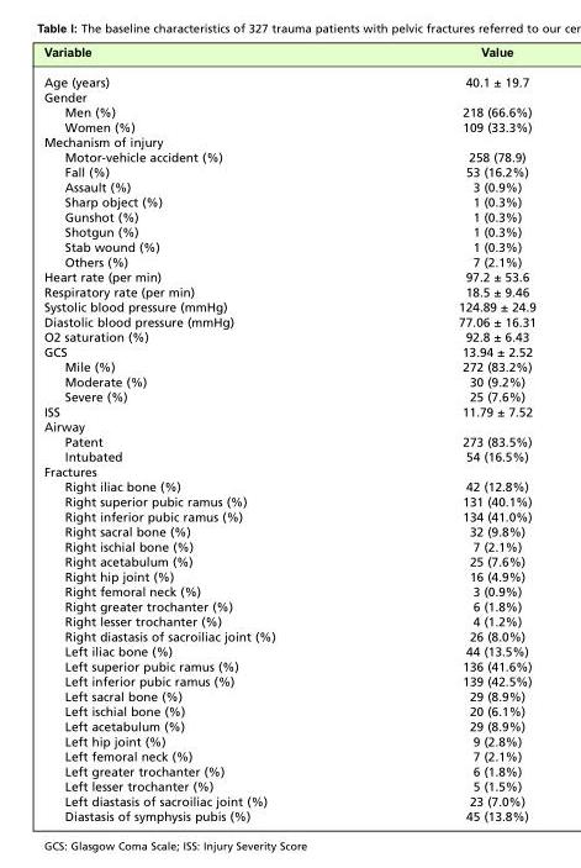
<table><thead><tr><td>Variable</td><td>Value</td></tr></thead><tbody><tr><td>Age (years)</td><td>40.1 ± 19.7</td></tr><tr><td colspan="2">Gender</td></tr><tr><td>Men (%)</td><td>218 (66.6%)</td></tr><tr><td>Women (%)</td><td>109 (33.3%)</td></tr><tr><td colspan="2">Mechanism of injury</td></tr><tr><td>Motor-vehicle accident (%)</td><td>258 (78.9)</td></tr><tr><td>Fall (%)</td><td>53 (16.2%)</td></tr><tr><td>Assault (%)</td><td>3 (0.9%)</td></tr><tr><td>Sharp object (%)</td><td>1 (0.3%)</td></tr><tr><td>Gunshot (%)</td><td>1 (0.3%)</td></tr><tr><td>Shotgun (%)</td><td>1 (0.3%)</td></tr><tr><td>Stab wound (%)</td><td>1 (0.3%)</td></tr><tr><td>Others (%)</td><td>7 (2.1%)</td></tr><tr><td>Heart rate (per min)</td><td>97.2 ± 53.6</td></tr><tr><td>Respiratory rate (per min)</td><td>18.5 ± 9.46</td></tr><tr><td>Systolic blood pressure (mmHg)</td><td>124.89 ± 24.9</td></tr><tr><td>Diastolic blood pressure (mmHg)</td><td>77.06 ± 16.31</td></tr><tr><td>O2 saturation (%)</td><td>92.8 ± 6.43</td></tr><tr><td>GCS</td><td>13.94 ± 2.52</td></tr><tr><td>Mile (%)</td><td>272 (83.2%)</td></tr><tr><td>Moderate (%)</td><td>30 (9.2%)</td></tr><tr><td>Severe (%)</td><td>25 (7.6%)</td></tr><tr><td>ISS</td><td>11.79 ± 7.52</td></tr><tr><td colspan="2">Airway</td></tr><tr><td>Patent</td><td>273 (83.5%)</td></tr><tr><td>Intubated</td><td>54 (16.5%)</td></tr><tr><td colspan="2">Fractures</td></tr><tr><td>Right iliac bone (%)</td><td>42 (12.8%)</td></tr><tr><td>Right superior pubic ramus (%)</td><td>131 (40.1%)</td></tr><tr><td>Right inferior pubic ramus (%)</td><td>134 (41.0%)</td></tr><tr><td>Right sacral bone (%)</td><td>32 (9.8%)</td></tr><tr><td>Right ischial bone (%)</td><td>7 (2.1%)</td></tr><tr><td>Right acetabulum (%)</td><td>25 (7.6%)</td></tr><tr><td>Right hip joint (%)</td><td>16 (4.9%)</td></tr><tr><td>Right femoral neck (%)</td><td>3 (0.9%)</td></tr><tr><td>Right greater trochanter (%)</td><td>6 (1.8%)</td></tr><tr><td>Right lesser trochanter (%)</td><td>4 (1.2%)</td></tr><tr><td>Right diastasis of sacroiliac joint (%)</td><td>26 (8.0%)</td></tr><tr><td>Left iliac bone (%)</td><td>44 (13.5%)</td></tr><tr><td>Left superior pubic ramus (%)</td><td>136 (41.6%)</td></tr><tr><td>Left inferior pubic ramus (%)</td><td>139 (42.5%)</td></tr><tr><td>Left sacral bone (%)</td><td>29 (8.9%)</td></tr><tr><td>Left ischial bone (%)</td><td>20 (6.1%)</td></tr><tr><td>Left acetabulum (%)</td><td>29 (8.9%)</td></tr><tr><td>Left hip joint (%)</td><td>9 (2.8%)</td></tr><tr><td>Left femoral neck (%)</td><td>7 (2.1%)</td></tr><tr><td>Left greater trochanter (%)</td><td>6 (1.8%)</td></tr><tr><td>Left lesser trochanter (%)</td><td>5 (1.5%)</td></tr><tr><td>Left diastasis of sacroiliac joint (%)</td><td>23 (7.0%)</td></tr><tr><td>Diastasis of symphysis pubis (%)</td><td>45 (13.8%)</td></tr></tbody></table>